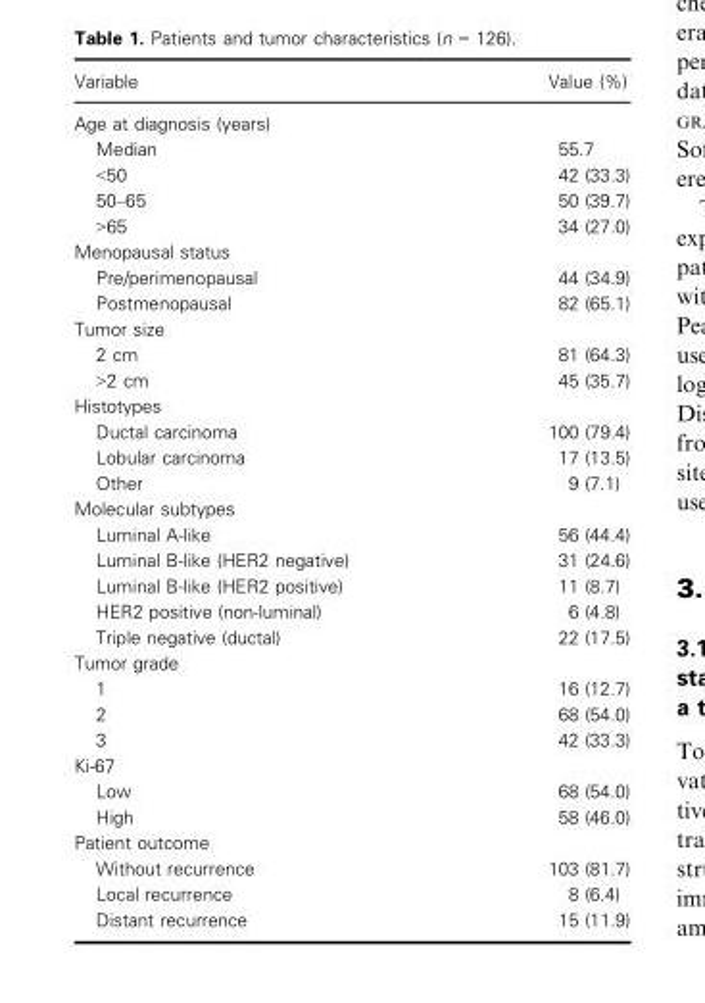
<table><thead><tr><td>Variable</td><td>Value (%)</td></tr></thead><tbody><tr><td colspan="2">Age at diagnosis (years)</td></tr><tr><td>Median</td><td>55.7</td></tr><tr><td>&lt;50</td><td>42 (33.3)</td></tr><tr><td>50–65</td><td>50 (39.7)</td></tr><tr><td>&gt;65</td><td>34 (27.0)</td></tr><tr><td colspan="2">Menopausal status</td></tr><tr><td>Pre/perimenopausal</td><td>44 (34.9)</td></tr><tr><td>Postmenopausal</td><td>82 (65.1)</td></tr><tr><td colspan="2">Tumor size</td></tr><tr><td>2 cm</td><td>81 (64.3)</td></tr><tr><td>&gt;2 cm</td><td>45 (35.7)</td></tr><tr><td colspan="2">Histotypes</td></tr><tr><td>Ductal carcinoma</td><td>100 (79.4)</td></tr><tr><td>Lobular carcinoma</td><td>17 (13.5)</td></tr><tr><td>Other</td><td>9 (7.1)</td></tr><tr><td colspan="2">Molecular subtypes</td></tr><tr><td>Luminal A-like</td><td>56 (44.4)</td></tr><tr><td>Luminal B-like (HER2 negative)</td><td>31 (24.6)</td></tr><tr><td>Luminal B-like (HER2 positive)</td><td>11 (8.7)</td></tr><tr><td>HER2 positive (non-luminal)</td><td>6 (4.8)</td></tr><tr><td>Triple negative (ductal)</td><td>22 (17.5)</td></tr><tr><td colspan="2">Tumor grade</td></tr><tr><td>1</td><td>16 (12.7)</td></tr><tr><td>2</td><td>68 (54.0)</td></tr><tr><td>3</td><td>42 (33.3)</td></tr><tr><td colspan="2">Ki-67</td></tr><tr><td>Low</td><td>68 (54.0)</td></tr><tr><td>High</td><td>58 (46.0)</td></tr><tr><td colspan="2">Patient outcome</td></tr><tr><td>Without recurrence</td><td>103 (81.7)</td></tr><tr><td>Local recurrence</td><td>8 (6.4)</td></tr><tr><td>Distant recurrence</td><td>15 (11.9)</td></tr></tbody></table>